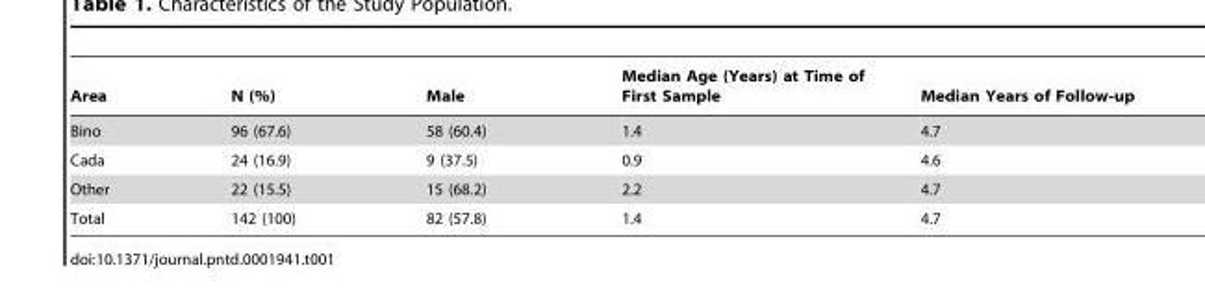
<table><thead><tr><td>Area</td><td>N (%)</td><td>Male</td><td>Median Age (Years) at Time of First Sample</td><td>Median Years of Follow-up</td></tr></thead><tbody><tr><td>Bino</td><td>96 (67.6)</td><td>58 (60.4)</td><td>1.4</td><td>4.7</td></tr><tr><td>Cada</td><td>24 (16.9)</td><td>9 (37.5)</td><td>0.9</td><td>4.6</td></tr><tr><td>Other</td><td>22 (15.5)</td><td>15 (68.2)</td><td>2.2</td><td>4.7</td></tr><tr><td>Total</td><td>142 (100)</td><td>82 (57.8)</td><td>1.4</td><td>4.7</td></tr></tbody></table>